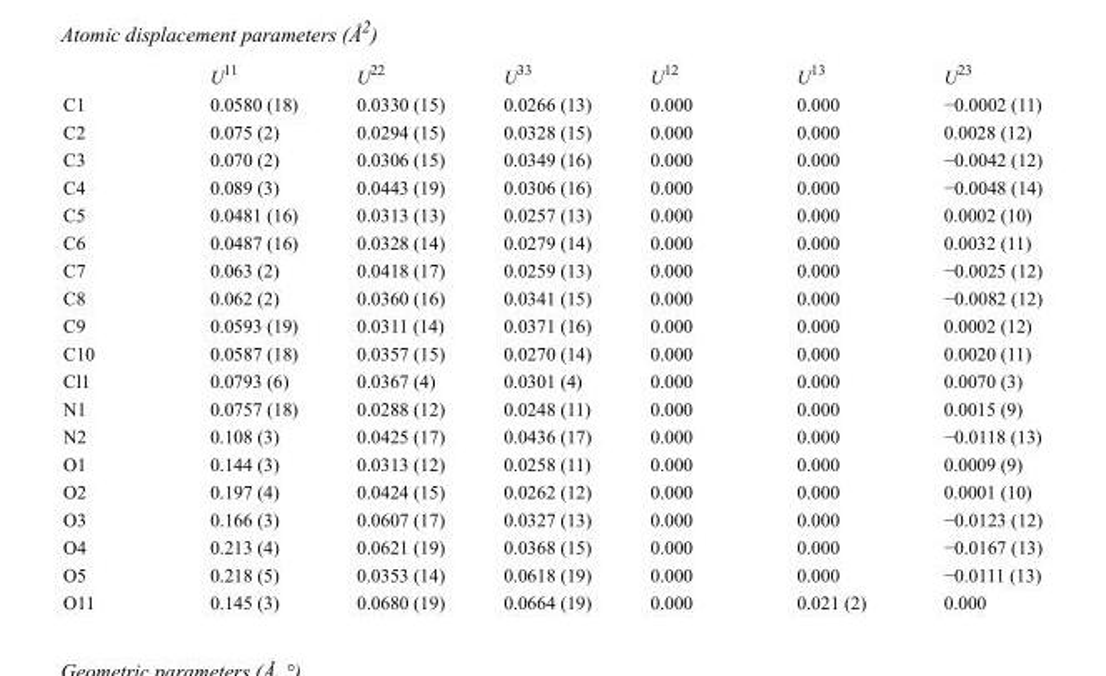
<table><thead><tr><td></td><td>U<sup>11</sup></td><td>U<sup>22</sup></td><td>U<sup>33</sup></td><td>U<sup>12</sup></td><td>U<sup>13</sup></td><td>U<sup>23</sup></td></tr></thead><tbody><tr><td>C1</td><td>0.0580 (18)</td><td>0.0330 (15)</td><td>0.0266 (13)</td><td>0.000</td><td>0.000</td><td>−0.0002 (11)</td></tr><tr><td>C2</td><td>0.075 (2)</td><td>0.0294 (15)</td><td>0.0328 (15)</td><td>0.000</td><td>0.000</td><td>0.0028 (12)</td></tr><tr><td>C3</td><td>0.070 (2)</td><td>0.0306 (15)</td><td>0.0349 (16)</td><td>0.000</td><td>0.000</td><td>−0.0042 (12)</td></tr><tr><td>C4</td><td>0.089 (3)</td><td>0.0443 (19)</td><td>0.0306 (16)</td><td>0.000</td><td>0.000</td><td>−0.0048 (14)</td></tr><tr><td>C5</td><td>0.0481 (16)</td><td>0.0313 (13)</td><td>0.0257 (13)</td><td>0.000</td><td>0.000</td><td>0.0002 (10)</td></tr><tr><td>C6</td><td>0.0487 (16)</td><td>0.0328 (14)</td><td>0.0279 (14)</td><td>0.000</td><td>0.000</td><td>0.0032 (11)</td></tr><tr><td>C7</td><td>0.063 (2)</td><td>0.0418 (17)</td><td>0.0259 (13)</td><td>0.000</td><td>0.000</td><td>−0.0025 (12)</td></tr><tr><td>C8</td><td>0.062 (2)</td><td>0.0360 (16)</td><td>0.0341 (15)</td><td>0.000</td><td>0.000</td><td>−0.0082 (12)</td></tr><tr><td>C9</td><td>0.0593 (19)</td><td>0.0311 (14)</td><td>0.0371 (16)</td><td>0.000</td><td>0.000</td><td>0.0002 (12)</td></tr><tr><td>C10</td><td>0.0587 (18)</td><td>0.0357 (15)</td><td>0.0270 (14)</td><td>0.000</td><td>0.000</td><td>0.0020 (11)</td></tr><tr><td>Cl1</td><td>0.0793 (6)</td><td>0.0367 (4)</td><td>0.0301 (4)</td><td>0.000</td><td>0.000</td><td>0.0070 (3)</td></tr><tr><td>N1</td><td>0.0757 (18)</td><td>0.0288 (12)</td><td>0.0248 (11)</td><td>0.000</td><td>0.000</td><td>0.0015 (9)</td></tr><tr><td>N2</td><td>0.108 (3)</td><td>0.0425 (17)</td><td>0.0436 (17)</td><td>0.000</td><td>0.000</td><td>−0.0118 (13)</td></tr><tr><td>O1</td><td>0.144 (3)</td><td>0.0313 (12)</td><td>0.0258 (11)</td><td>0.000</td><td>0.000</td><td>0.0009 (9)</td></tr><tr><td>O2</td><td>0.197 (4)</td><td>0.0424 (15)</td><td>0.0262 (12)</td><td>0.000</td><td>0.000</td><td>0.0001 (10)</td></tr><tr><td>O3</td><td>0.166 (3)</td><td>0.0607 (17)</td><td>0.0327 (13)</td><td>0.000</td><td>0.000</td><td>−0.0123 (12)</td></tr><tr><td>O4</td><td>0.213 (4)</td><td>0.0621 (19)</td><td>0.0368 (15)</td><td>0.000</td><td>0.000</td><td>−0.0167 (13)</td></tr><tr><td>O5</td><td>0.218 (5)</td><td>0.0353 (14)</td><td>0.0618 (19)</td><td>0.000</td><td>0.000</td><td>−0.0111 (13)</td></tr><tr><td>O11</td><td>0.145 (3)</td><td>0.0680 (19)</td><td>0.0664 (19)</td><td>0.000</td><td>0.021 (2)</td><td>0.000</td></tr></tbody></table>